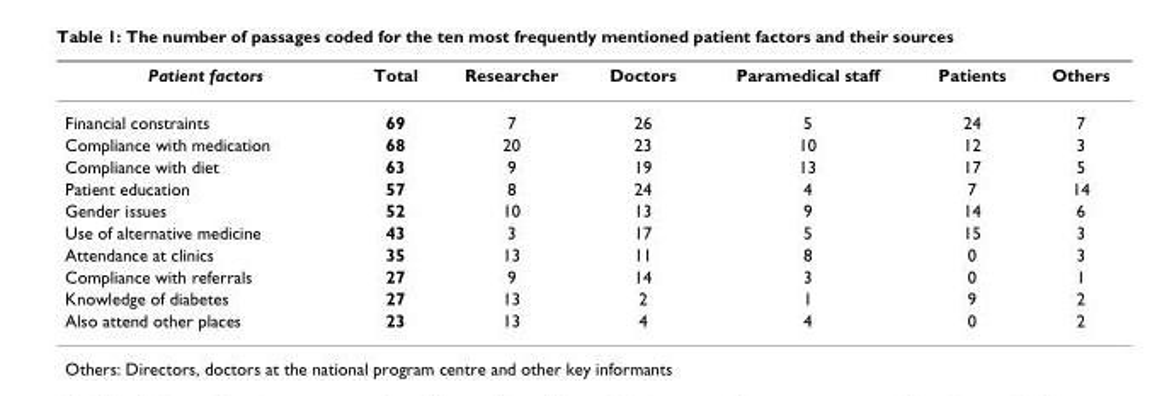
<table><thead><tr><td>Patient factors</td><td>Total</td><td>Researcher</td><td>Doctors</td><td>Paramedical staff</td><td>Patients</td><td>Others</td></tr></thead><tbody><tr><td>Financial constraints</td><td>69</td><td>7</td><td>26</td><td>5</td><td>24</td><td>7</td></tr><tr><td>Compliance with medication</td><td>68</td><td>20</td><td>23</td><td>10</td><td>12</td><td>3</td></tr><tr><td>Compliance with diet</td><td>63</td><td>9</td><td>19</td><td>13</td><td>17</td><td>5</td></tr><tr><td>Patient education</td><td>57</td><td>8</td><td>24</td><td>4</td><td>7</td><td>14</td></tr><tr><td>Gender issues</td><td>52</td><td>10</td><td>13</td><td>9</td><td>14</td><td>6</td></tr><tr><td>Use of alternative medicine</td><td>43</td><td>3</td><td>17</td><td>5</td><td>15</td><td>3</td></tr><tr><td>Attendance at clinics</td><td>35</td><td>13</td><td>11</td><td>8</td><td>0</td><td>3</td></tr><tr><td>Compliance with referrals</td><td>27</td><td>9</td><td>14</td><td>3</td><td>0</td><td>1</td></tr><tr><td>Knowledge of diabetes</td><td>27</td><td>13</td><td>2</td><td>1</td><td>9</td><td>2</td></tr><tr><td>Also attend other places</td><td>23</td><td>13</td><td>4</td><td>4</td><td>0</td><td>2</td></tr></tbody></table>